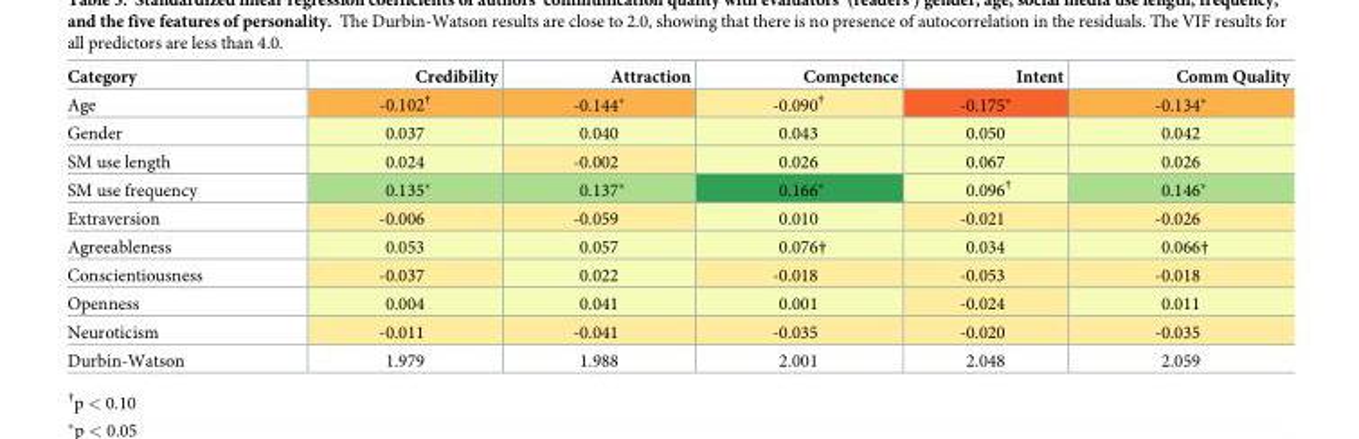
<table><thead><tr><td>Category</td><td>Credibility</td><td>Attraction</td><td>Competence</td><td>Intent</td><td>Comm Quality</td></tr></thead><tbody><tr><td>Age</td><td>-0.102<sup>†</sup></td><td>-0.144*</td><td>-0.090<sup>†</sup></td><td>-0.175*</td><td>-0.134*</td></tr><tr><td>Gender</td><td>0.037</td><td>0.040</td><td>0.043</td><td>0.050</td><td>0.042</td></tr><tr><td>SM use length</td><td>0.024</td><td>-0.002</td><td>0.026</td><td>0.067</td><td>0.026</td></tr><tr><td>SM use frequency</td><td>0.135*</td><td>0.137*</td><td>0.166*</td><td>0.096<sup>†</sup></td><td>0.146*</td></tr><tr><td>Extraversion</td><td>-0.006</td><td>-0.059</td><td>0.010</td><td>-0.021</td><td>-0.026</td></tr><tr><td>Agreeableness</td><td>0.053</td><td>0.057</td><td>0.076†</td><td>0.034</td><td>0.066†</td></tr><tr><td>Conscientiousness</td><td>-0.037</td><td>0.022</td><td>-0.018</td><td>-0.053</td><td>-0.018</td></tr><tr><td>Openness</td><td>0.004</td><td>0.041</td><td>0.001</td><td>-0.024</td><td>0.011</td></tr><tr><td>Neuroticism</td><td>-0.011</td><td>-0.041</td><td>-0.035</td><td>-0.020</td><td>-0.035</td></tr><tr><td>Durbin-Watson</td><td>1.979</td><td>1.988</td><td>2.001</td><td>2.048</td><td>2.059</td></tr></tbody></table>